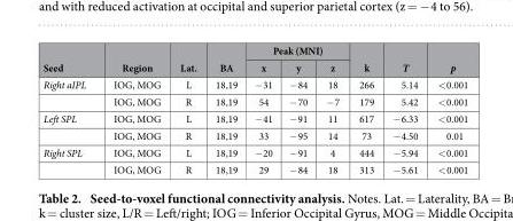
<table><thead><tr><td rowspan="2">Seed</td><td rowspan="2">Region</td><td rowspan="2">Lat.</td><td rowspan="2">BA</td><td colspan="3">Peak (MNI)</td><td rowspan="2">k</td><td rowspan="2">T</td><td rowspan="2">p</td></tr><tr><td>x</td><td>y</td><td>z</td></tr></thead><tbody><tr><td rowspan="2">Right aIPL</td><td>IOG, MOG</td><td>L</td><td>18,19</td><td>− 31</td><td>− 84</td><td>18</td><td>266</td><td>5.14</td><td>&lt; 0.001</td></tr><tr><td>IOG, MOG</td><td>R</td><td>18,19</td><td>54</td><td>− 70</td><td>− 7</td><td>179</td><td>5.42</td><td>&lt; 0.001</td></tr><tr><td rowspan="2">Left SPL</td><td>IOG, MOG</td><td>L</td><td>18,19</td><td>− 41</td><td>− 91</td><td>11</td><td>617</td><td>− 6.33</td><td>&lt; 0.001</td></tr><tr><td>IOG, MOG</td><td>R</td><td>18,19</td><td>33</td><td>− 95</td><td>14</td><td>73</td><td>− 4.50</td><td>0.01</td></tr><tr><td rowspan="2">Right SPL</td><td>IOG, MOG</td><td>L</td><td>18,19</td><td>− 20</td><td>− 91</td><td>4</td><td>444</td><td>− 5.94</td><td>&lt; 0.001</td></tr><tr><td>IOG, MOG</td><td>R</td><td>18,19</td><td>29</td><td>− 84</td><td>18</td><td>313</td><td>− 5.61</td><td>&lt; 0.001</td></tr></tbody></table>